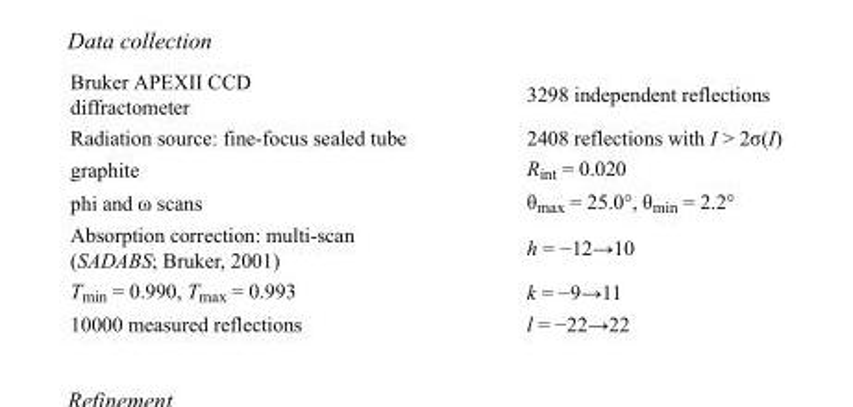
<table><tbody><tr><td>Bruker APEXII CCD diffractometer</td><td>3298 independent reflections</td></tr><tr><td>Radiation source: fine-focus sealed tube</td><td>2408 reflections with I &gt; 2σ(I)</td></tr><tr><td>graphite</td><td>R<sub>int</sub> = 0.020</td></tr><tr><td>phi and ω scans</td><td>θ<sub>max</sub> = 25.0°, θ<sub>min</sub> = 2.2°</td></tr><tr><td>Absorption correction: multi-scan (SADABS; Bruker, 2001)</td><td>h = −12→10</td></tr><tr><td>T<sub>min</sub> = 0.990, T<sub>max</sub> = 0.993</td><td>k = −9→11</td></tr><tr><td>10000 measured reflections</td><td>l = −22→22</td></tr></tbody></table>